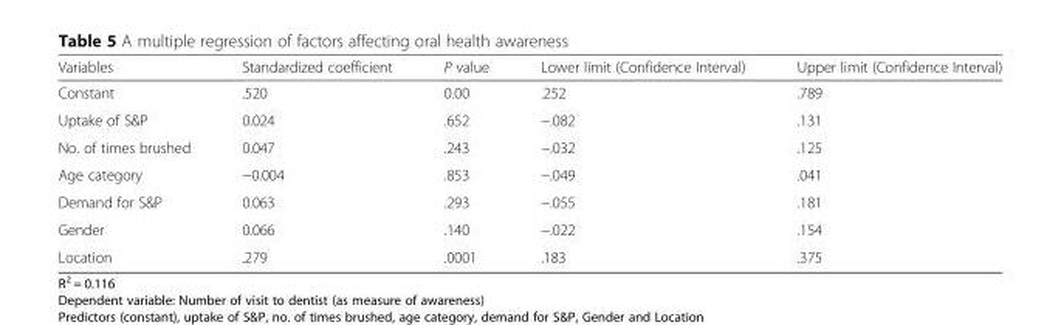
<table><thead><tr><td>Variables</td><td>Standardized coefficient</td><td>P value</td><td>Lower limit (Confidence Interval)</td><td>Upper limit (Confidence Interval)</td></tr></thead><tbody><tr><td>Constant</td><td>.520</td><td>0.00</td><td>.252</td><td>.789</td></tr><tr><td>Uptake of S&amp;P</td><td>0.024</td><td>.652</td><td>−.082</td><td>.131</td></tr><tr><td>No. of times brushed</td><td>0.047</td><td>.243</td><td>−.032</td><td>.125</td></tr><tr><td>Age category</td><td>−0.004</td><td>.853</td><td>−.049</td><td>.041</td></tr><tr><td>Demand for S&amp;P</td><td>0.063</td><td>.293</td><td>−.055</td><td>.181</td></tr><tr><td>Gender</td><td>0.066</td><td>.140</td><td>−.022</td><td>.154</td></tr><tr><td>Location</td><td>.279</td><td>.0001</td><td>.183</td><td>.375</td></tr></tbody></table>